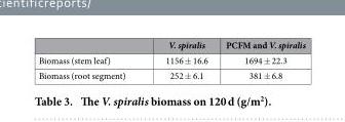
<table><thead><tr><td></td><td>V. spiralis</td><td>PCFM and V. spiralis</td></tr></thead><tbody><tr><td>Biomass (stem leaf)</td><td>1156 ± 16.6</td><td>1694 ± 22.3</td></tr><tr><td>Biomass (root segment)</td><td>252 ± 6.1</td><td>381 ± 6.8</td></tr></tbody></table>